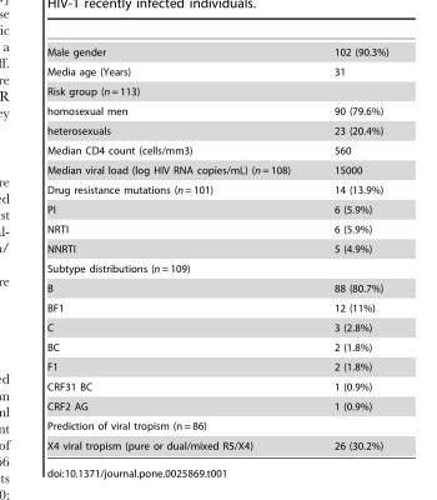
<table><tbody><tr><td>Male gender</td><td>102 (90.3%)</td></tr><tr><td>Media age (Years)</td><td>31</td></tr><tr><td colspan="2">Risk group (n = 113)</td></tr><tr><td>homosexual men</td><td>90 (79.6%)</td></tr><tr><td>heterosexuals</td><td>23 (20.4%)</td></tr><tr><td>Median CD4 count (cells/mm3)</td><td>560</td></tr><tr><td>Median viral load (log HIV RNA copies/mL) (n = 108)</td><td>15000</td></tr><tr><td>Drug resistance mutations (n = 101)</td><td>14 (13.9%)</td></tr><tr><td>PI</td><td>6 (5.9%)</td></tr><tr><td>NRTI</td><td>6 (5.9%)</td></tr><tr><td>NNRTI</td><td>5 (4.9%)</td></tr><tr><td colspan="2">Subtype distributions (n = 109)</td></tr><tr><td>B</td><td>88 (80.7%)</td></tr><tr><td>BF1</td><td>12 (11%)</td></tr><tr><td>C</td><td>3 (2.8%)</td></tr><tr><td>BC</td><td>2 (1.8%)</td></tr><tr><td>F1</td><td>2 (1.8%)</td></tr><tr><td>CRF31 BC</td><td>1 (0.9%)</td></tr><tr><td>CRF2 AG</td><td>1 (0.9%)</td></tr><tr><td colspan="2">Prediction of viral tropism (n = 86)</td></tr><tr><td>X4 viral tropism (pure or dual/mixed R5/X4)</td><td>26 (30.2%)</td></tr></tbody></table>